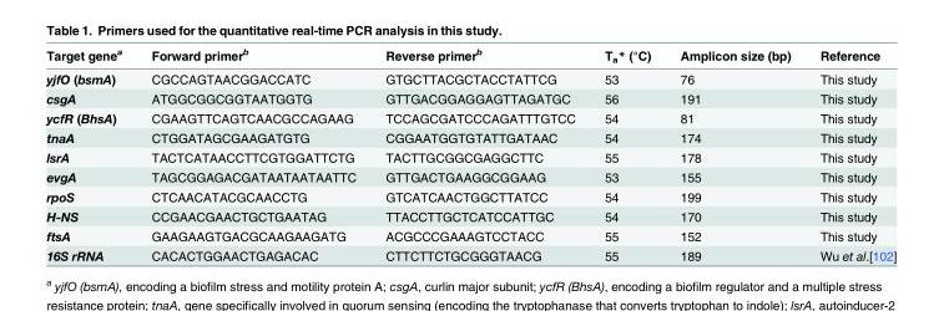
<table><thead><tr><td>Target gene<sup>a</sup></td><td>Forward primer<sup>b</sup></td><td>Reverse primer<sup>b</sup></td><td>T<sub>a</sub>* (°C)</td><td>Amplicon size (bp)</td><td>Reference</td></tr></thead><tbody><tr><td>yjfO (bsmA)</td><td>CGCCAGTAACGGACCATC</td><td>GTGCTTACGCTACCTATTCG</td><td>53</td><td>76</td><td>This study</td></tr><tr><td>csgA</td><td>ATGGCGGCGGTAATGGTG</td><td>GTTGACGGAGGAGTTAGATGC</td><td>56</td><td>191</td><td>This study</td></tr><tr><td>ycfR (BhsA)</td><td>CGAAGTTCAGTCAACGCCAGAAG</td><td>TCCAGCGATCCCAGATTTGTCC</td><td>54</td><td>81</td><td>This study</td></tr><tr><td>tnaA</td><td>CTGGATAGCGAAGATGTG</td><td>CGGAATGGTGTATTGATAAC</td><td>54</td><td>174</td><td>This study</td></tr><tr><td>lsrA</td><td>TACTCATAACCTTCGTGGATTCTG</td><td>TACTTGCGGCGAGGCTTC</td><td>55</td><td>178</td><td>This study</td></tr><tr><td>evgA</td><td>TAGCGGAGACGATAATAATAATTC</td><td>GTTGACTGAAGGCGGAAG</td><td>53</td><td>155</td><td>This study</td></tr><tr><td>rpoS</td><td>CTCAACATACGCAACCTG</td><td>GTCATCAACTGGCTTATCC</td><td>54</td><td>199</td><td>This study</td></tr><tr><td>H-NS</td><td>CCGAACGAACTGCTGAATAG</td><td>TTACCTTGCTCATCCATTGC</td><td>54</td><td>170</td><td>This study</td></tr><tr><td>ftsA</td><td>GAAGAAGTGACGCAAGAAGATG</td><td>ACGCCCGAAAGTCCTACC</td><td>55</td><td>152</td><td>This study</td></tr><tr><td>16S rRNA</td><td>CACACTGGAACTGAGACAC</td><td>CTTCTTCTGCGGGTAACG</td><td>55</td><td>189</td><td>Wu et al.[102]</td></tr></tbody></table>